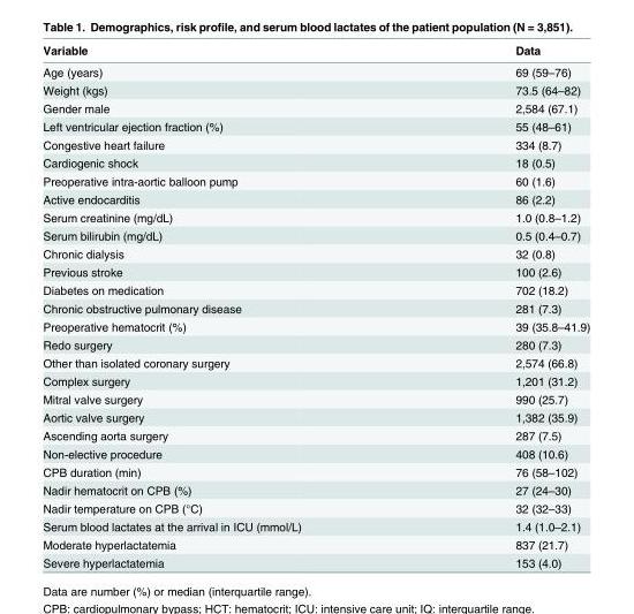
<table><thead><tr><td>Variable</td><td>Data</td></tr></thead><tbody><tr><td>Age (years)</td><td>69 (59–76)</td></tr><tr><td>Weight (kgs)</td><td>73.5 (64–82)</td></tr><tr><td>Gender male</td><td>2,584 (67.1)</td></tr><tr><td>Left ventricular ejection fraction (%)</td><td>55 (48–61)</td></tr><tr><td>Congestive heart failure</td><td>334 (8.7)</td></tr><tr><td>Cardiogenic shock</td><td>18 (0.5)</td></tr><tr><td>Preoperative intra-aortic balloon pump</td><td>60 (1.6)</td></tr><tr><td>Active endocarditis</td><td>86 (2.2)</td></tr><tr><td>Serum creatinine (mg/dL)</td><td>1.0 (0.8–1.2)</td></tr><tr><td>Serum bilirubin (mg/dL)</td><td>0.5 (0.4–0.7)</td></tr><tr><td>Chronic dialysis</td><td>32 (0.8)</td></tr><tr><td>Previous stroke</td><td>100 (2.6)</td></tr><tr><td>Diabetes on medication</td><td>702 (18.2)</td></tr><tr><td>Chronic obstructive pulmonary disease</td><td>281 (7.3)</td></tr><tr><td>Preoperative hematocrit (%)</td><td>39 (35.8–41.9)</td></tr><tr><td>Redo surgery</td><td>280 (7.3)</td></tr><tr><td>Other than isolated coronary surgery</td><td>2,574 (66.8)</td></tr><tr><td>Complex surgery</td><td>1,201 (31.2)</td></tr><tr><td>Mitral valve surgery</td><td>990 (25.7)</td></tr><tr><td>Aortic valve surgery</td><td>1,382 (35.9)</td></tr><tr><td>Ascending aorta surgery</td><td>287 (7.5)</td></tr><tr><td>Non-elective procedure</td><td>408 (10.6)</td></tr><tr><td>CPB duration (min)</td><td>76 (58–102)</td></tr><tr><td>Nadir hematocrit on CPB (%)</td><td>27 (24–30)</td></tr><tr><td>Nadir temperature on CPB (°C)</td><td>32 (32–33)</td></tr><tr><td>Serum blood lactates at the arrival in ICU (mmol/L)</td><td>1.4 (1.0–2.1)</td></tr><tr><td>Moderate hyperlactatemia</td><td>837 (21.7)</td></tr><tr><td>Severe hyperlactatemia</td><td>153 (4.0)</td></tr></tbody></table>